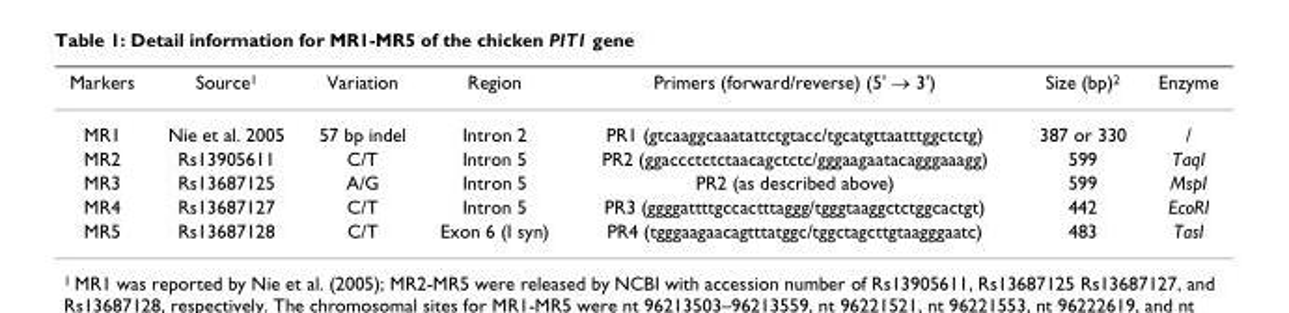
<table><thead><tr><td>Markers</td><td>Source<sup>1</sup></td><td>Variation</td><td>Region</td><td>Primers (forward/reverse) (5&#x27; → 3&#x27;)</td><td>Size (bp)<sup>2</sup></td><td>Enzyme</td></tr></thead><tbody><tr><td>MR1</td><td>Nie et al. 2005</td><td>57 bp indel</td><td>Intron 2</td><td>PR1 (gtcaaggcaaatattctgtacc/tgcatgttaatttggctctg)</td><td>387 or 330</td><td>/</td></tr><tr><td>MR2</td><td>Rs13905611</td><td>C/T</td><td>Intron 5</td><td>PR2 (ggaccctctctaacagctctc/gggaagaatacagggaaagg)</td><td>599</td><td>TaqI</td></tr><tr><td>MR3</td><td>Rs13687125</td><td>A/G</td><td>Intron 5</td><td>PR2 (as described above)</td><td>599</td><td>MspI</td></tr><tr><td>MR4</td><td>Rs13687127</td><td>C/T</td><td>Intron 5</td><td>PR3 (ggggattttgccactttaggg/tgggtaaggctctggcactgt)</td><td>442</td><td>EcoRI</td></tr><tr><td>MR5</td><td>Rs13687128</td><td>C/T</td><td>Exon 6 (I syn)</td><td>PR4 (tgggaagaacagtttatggc/tggctagcttgtaagggaatc)</td><td>483</td><td>TasI</td></tr></tbody></table>